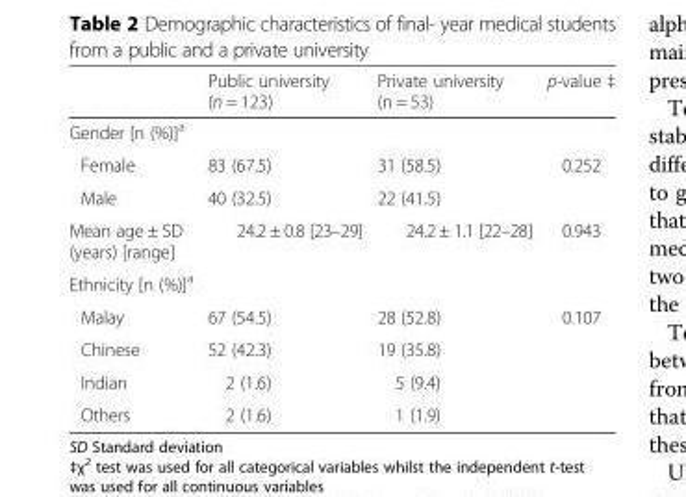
<table><thead><tr><td></td><td>Public university (n = 123)</td><td>Private university (n = 53)</td><td>p-value ‡</td></tr></thead><tbody><tr><td colspan="4">Gender [n (%)]<sup>a</sup></td></tr><tr><td>Female</td><td>83 (67.5)</td><td>31 (58.5)</td><td rowspan="2">0.252</td></tr><tr><td>Male</td><td>40 (32.5)</td><td>22 (41.5)</td></tr><tr><td>Mean age ± SD (years) [range]</td><td>24.2 ± 0.8 [23–29]</td><td>24.2 ± 1.1 [22–28]</td><td>0.943</td></tr><tr><td colspan="4">Ethnicity [n (%)]<sup>a</sup></td></tr><tr><td>Malay</td><td>67 (54.5)</td><td>28 (52.8)</td><td rowspan="4">0.107</td></tr><tr><td>Chinese</td><td>52 (42.3)</td><td>19 (35.8)</td></tr><tr><td>Indian</td><td>2 (1.6)</td><td>5 (9.4)</td></tr><tr><td>Others</td><td>2 (1.6)</td><td>1 (1.9)</td></tr></tbody></table>